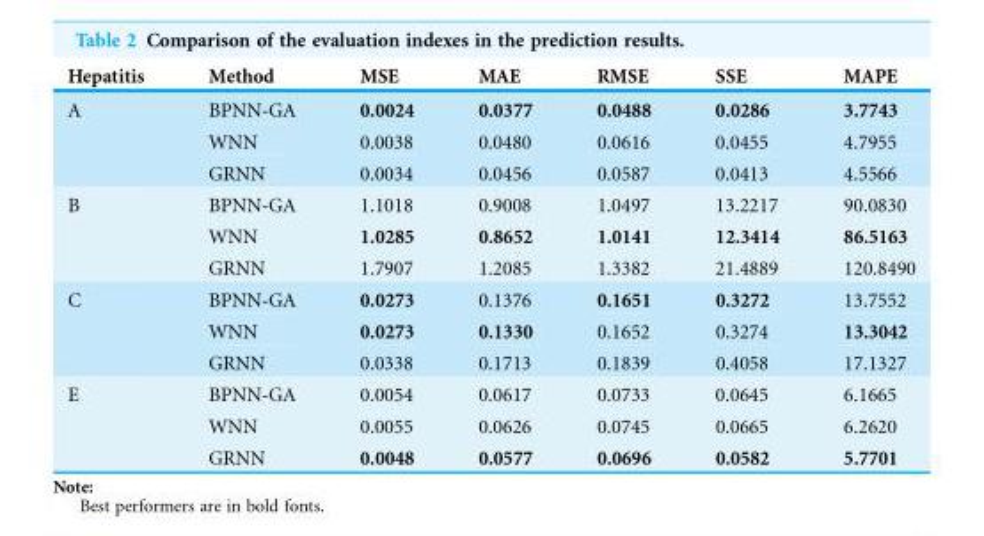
<table><thead><tr><td>Hepatitis</td><td>Method</td><td>MSE</td><td>MAE</td><td>RMSE</td><td>SSE</td><td>MAPE</td></tr></thead><tbody><tr><td rowspan="3">A</td><td>BPNN-GA</td><td>0.0024</td><td>0.0377</td><td>0.0488</td><td>0.0286</td><td>3.7743</td></tr><tr><td>WNN</td><td>0.0038</td><td>0.0480</td><td>0.0616</td><td>0.0455</td><td>4.7955</td></tr><tr><td>GRNN</td><td>0.0034</td><td>0.0456</td><td>0.0587</td><td>0.0413</td><td>4.5566</td></tr><tr><td rowspan="3">B</td><td>BPNN-GA</td><td>1.1018</td><td>0.9008</td><td>1.0497</td><td>13.2217</td><td>90.0830</td></tr><tr><td>WNN</td><td>1.0285</td><td>0.8652</td><td>1.0141</td><td>12.3414</td><td>86.5163</td></tr><tr><td>GRNN</td><td>1.7907</td><td>1.2085</td><td>1.3382</td><td>21.4889</td><td>120.8490</td></tr><tr><td rowspan="3">C</td><td>BPNN-GA</td><td>0.0273</td><td>0.1376</td><td>0.1651</td><td>0.3272</td><td>13.7552</td></tr><tr><td>WNN</td><td>0.0273</td><td>0.1330</td><td>0.1652</td><td>0.3274</td><td>13.3042</td></tr><tr><td>GRNN</td><td>0.0338</td><td>0.1713</td><td>0.1839</td><td>0.4058</td><td>17.1327</td></tr><tr><td rowspan="3">E</td><td>BPNN-GA</td><td>0.0054</td><td>0.0617</td><td>0.0733</td><td>0.0645</td><td>6.1665</td></tr><tr><td>WNN</td><td>0.0055</td><td>0.0626</td><td>0.0745</td><td>0.0665</td><td>6.2620</td></tr><tr><td>GRNN</td><td>0.0048</td><td>0.0577</td><td>0.0696</td><td>0.0582</td><td>5.7701</td></tr></tbody></table>